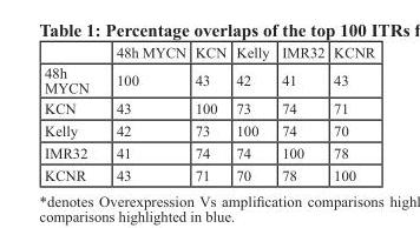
<table><thead><tr><td></td><td>48h MYCN</td><td>KCN</td><td>Kelly</td><td>IMR32</td><td>KCNR</td></tr></thead><tbody><tr><td>48h MYCN</td><td>100</td><td>43</td><td>42</td><td>41</td><td>43</td></tr><tr><td>KCN</td><td>43</td><td>100</td><td>73</td><td>74</td><td>71</td></tr><tr><td>Kelly</td><td>42</td><td>73</td><td>100</td><td>74</td><td>70</td></tr><tr><td>IMR32</td><td>41</td><td>74</td><td>74</td><td>100</td><td>78</td></tr><tr><td>KCNR</td><td>43</td><td>71</td><td>70</td><td>78</td><td>100</td></tr></tbody></table>